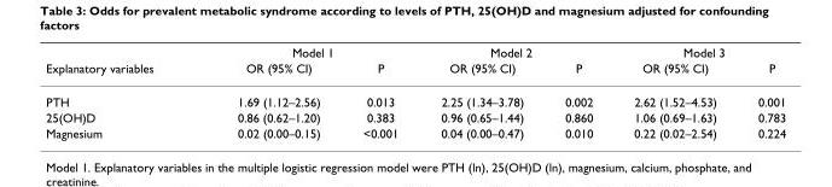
<table><thead><tr><td rowspan="2">Explanatory variables</td><td colspan="2">Model 1</td><td colspan="2">Model 2</td><td colspan="2">Model 3</td></tr><tr><td>OR (95% CI)</td><td>P</td><td>OR (95% CI)</td><td>P</td><td>OR (95% CI)</td><td>P</td></tr></thead><tbody><tr><td>PTH</td><td>1.69 (1.12–2.56)</td><td>0.013</td><td>2.25 (1.34–3.78)</td><td>0.002</td><td>2.62 (1.52–4.53)</td><td>0.001</td></tr><tr><td>25(OH)D</td><td>0.86 (0.62–1.20)</td><td>0.383</td><td>0.96 (0.65–1.44)</td><td>0.860</td><td>1.06 (0.69–1.63)</td><td>0.783</td></tr><tr><td>Magnesium</td><td>0.02 (0.00–0.15)</td><td>&lt;0.001</td><td>0.04 (0.00–0.47)</td><td>0.010</td><td>0.22 (0.02–2.54)</td><td>0.224</td></tr></tbody></table>